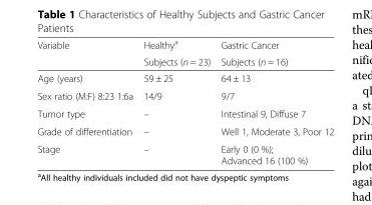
<table><thead><tr><td rowspan="2">Variable</td><td rowspan="2">Healthy<sup>a</sup> Subjects (n = 23)</td><td rowspan="2">Gastric Cancer Subjects (n = 16)</td></tr><tr></tr></thead><tbody><tr><td>Age (years)</td><td>59 ± 25</td><td>64 ± 13</td></tr><tr><td>Sex ratio (M:F) 8:23 1:6a</td><td>14/9</td><td>9/7</td></tr><tr><td>Tumor type</td><td>–</td><td>Intestinal 9, Diffuse 7</td></tr><tr><td>Grade of differentiation</td><td>–</td><td>Well 1, Moderate 3, Poor 12</td></tr><tr><td>Stage</td><td>–</td><td>Early 0 (0 %); Advanced 16 (100 %)</td></tr></tbody></table>